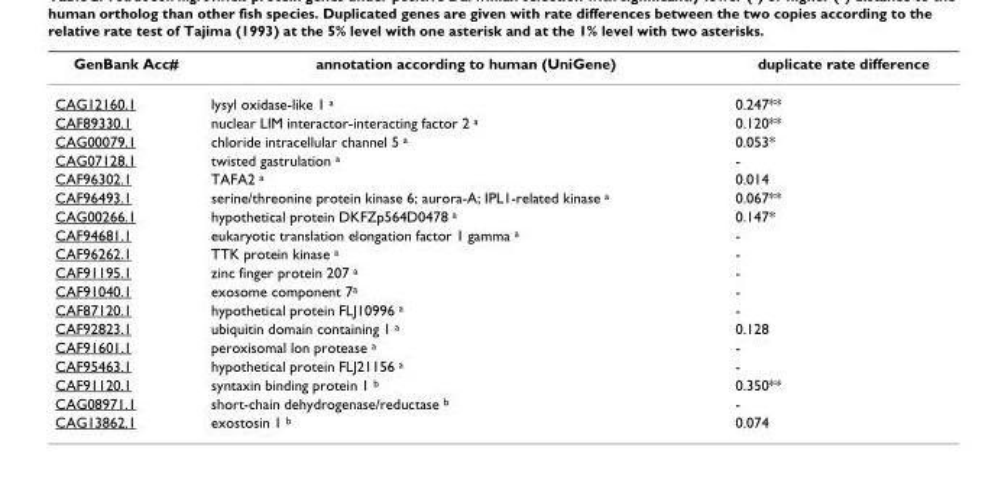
<table><thead><tr><td>GenBank Acc#</td><td>annotation according to human (UniGene)</td><td>duplicate rate difference</td></tr></thead><tbody><tr><td>CAG12160.1</td><td>lysyl oxidase-like 1 a</td><td>0.247**</td></tr><tr><td>CAF89330.1</td><td>nuclear LIM interactor-interacting factor 2 a</td><td>0.120**</td></tr><tr><td>CAG00079.1</td><td>chloride intracellular channel 5 a</td><td>0.053*</td></tr><tr><td>CAG07128.1</td><td>twisted gastrulation a</td><td>-</td></tr><tr><td>CAF96302.1</td><td>TAFA2 a</td><td>0.014</td></tr><tr><td>CAF96493.1</td><td>serine/threonine protein kinase 6; aurora-A; IPL1-related kinase a</td><td>0.067**</td></tr><tr><td>CAG00266.1</td><td>hypothetical protein DKFZp564D0478 a</td><td>0.147*</td></tr><tr><td>CAF94681.1</td><td>eukaryotic translation elongation factor 1 gamma a</td><td>-</td></tr><tr><td>CAF96262.1</td><td>TTK protein kinase a</td><td>-</td></tr><tr><td>CAF91195.1</td><td>zinc finger protein 207 a</td><td>-</td></tr><tr><td>CAF91040.1</td><td>exosome component 7a</td><td>-</td></tr><tr><td>CAF87120.1</td><td>hypothetical protein FLJ10996 a</td><td>-</td></tr><tr><td>CAF92823.1</td><td>ubiquitin domain containing 1 a</td><td>0.128</td></tr><tr><td>CAF91601.1</td><td>peroxisomal lon protease a</td><td>-</td></tr><tr><td>CAF95463.1</td><td>hypothetical protein FLJ21156 a</td><td>-</td></tr><tr><td>CAF91120.1</td><td>syntaxin binding protein 1 b</td><td>0.350**</td></tr><tr><td>CAG08971.1</td><td>short-chain dehydrogenase/reductase b</td><td>-</td></tr><tr><td>CAG13862.1</td><td>exostosin 1 b</td><td>0.074</td></tr></tbody></table>